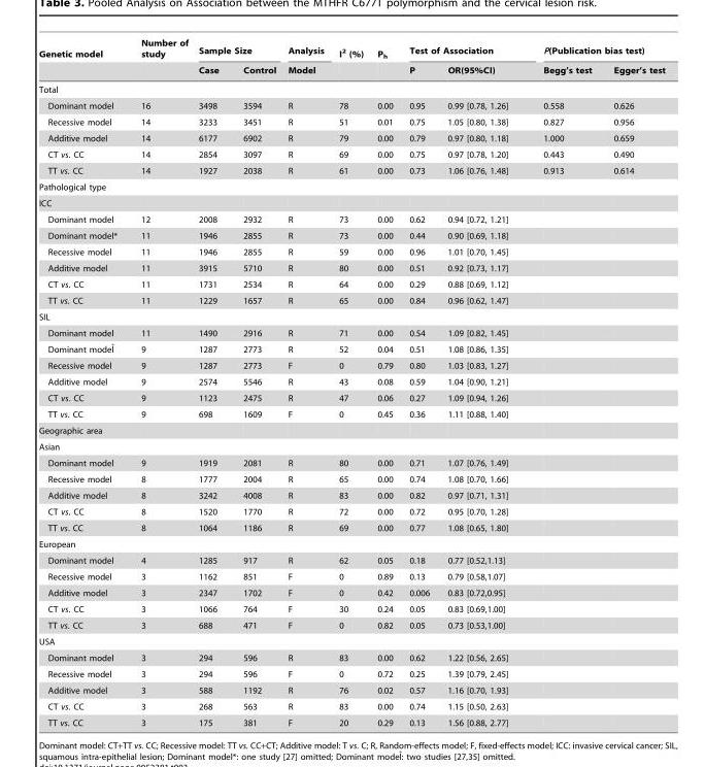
<table><thead><tr><td rowspan="2">Genetic model</td><td rowspan="2">Number of study</td><td colspan="2">Sample Size</td><td rowspan="2">Analysis Model</td><td rowspan="2">I<sup>2</sup> (%)</td><td rowspan="2">P<sub>h</sub></td><td colspan="2">Test of Association</td><td colspan="2">P(Publication bias test)</td></tr><tr><td>Case</td><td>Control</td><td>P</td><td>OR(95%CI)</td><td>Begg’s test</td><td>Egger’s test</td></tr></thead><tbody><tr><td colspan="11">Total</td></tr><tr><td>Dominant model</td><td>16</td><td>3498</td><td>3594</td><td>R</td><td>78</td><td>0.00</td><td>0.95</td><td>0.99 [0.78, 1.26]</td><td>0.558</td><td>0.626</td></tr><tr><td>Recessive model</td><td>14</td><td>3233</td><td>3451</td><td>R</td><td>51</td><td>0.01</td><td>0.75</td><td>1.05 [0.80, 1.38]</td><td>0.827</td><td>0.956</td></tr><tr><td>Additive model</td><td>14</td><td>6177</td><td>6902</td><td>R</td><td>79</td><td>0.00</td><td>0.79</td><td>0.97 [0.80, 1.18]</td><td>1.000</td><td>0.659</td></tr><tr><td>CT vs. CC</td><td>14</td><td>2854</td><td>3097</td><td>R</td><td>69</td><td>0.00</td><td>0.75</td><td>0.97 [0.78, 1.20]</td><td>0.443</td><td>0.490</td></tr><tr><td>TT vs. CC</td><td>14</td><td>1927</td><td>2038</td><td>R</td><td>61</td><td>0.00</td><td>0.73</td><td>1.06 [0.76, 1.48]</td><td>0.913</td><td>0.614</td></tr><tr><td colspan="11">Pathological type</td></tr><tr><td colspan="11">ICC</td></tr><tr><td>Dominant model</td><td>12</td><td>2008</td><td>2932</td><td>R</td><td>73</td><td>0.00</td><td>0.62</td><td>0.94 [0.72, 1.21]</td><td></td><td></td></tr><tr><td>Dominant model*</td><td>11</td><td>1946</td><td>2855</td><td>R</td><td>73</td><td>0.00</td><td>0.44</td><td>0.90 [0.69, 1.18]</td><td></td><td></td></tr><tr><td>Recessive model</td><td>11</td><td>1946</td><td>2855</td><td>R</td><td>59</td><td>0.00</td><td>0.96</td><td>1.01 [0.70, 1.45]</td><td></td><td></td></tr><tr><td>Additive model</td><td>11</td><td>3915</td><td>5710</td><td>R</td><td>80</td><td>0.00</td><td>0.51</td><td>0.92 [0.73, 1.17]</td><td></td><td></td></tr><tr><td>CT vs. CC</td><td>11</td><td>1731</td><td>2534</td><td>R</td><td>64</td><td>0.00</td><td>0.29</td><td>0.88 [0.69, 1.12]</td><td></td><td></td></tr><tr><td>TT vs. CC</td><td>11</td><td>1229</td><td>1657</td><td>R</td><td>65</td><td>0.00</td><td>0.84</td><td>0.96 [0.62, 1.47]</td><td></td><td></td></tr><tr><td colspan="11">SIL</td></tr><tr><td>Dominant model</td><td>11</td><td>1490</td><td>2916</td><td>R</td><td>71</td><td>0.00</td><td>0.54</td><td>1.09 [0.82, 1.45]</td><td></td><td></td></tr><tr><td>Dominant modelˆ</td><td>9</td><td>1287</td><td>2773</td><td>R</td><td>52</td><td>0.04</td><td>0.51</td><td>1.08 [0.86, 1.35]</td><td></td><td></td></tr><tr><td>Recessive model</td><td>9</td><td>1287</td><td>2773</td><td>F</td><td>0</td><td>0.79</td><td>0.80</td><td>1.03 [0.83, 1.27]</td><td></td><td></td></tr><tr><td>Additive model</td><td>9</td><td>2574</td><td>5546</td><td>R</td><td>43</td><td>0.08</td><td>0.59</td><td>1.04 [0.90, 1.21]</td><td></td><td></td></tr><tr><td>CT vs. CC</td><td>9</td><td>1123</td><td>2475</td><td>R</td><td>47</td><td>0.06</td><td>0.27</td><td>1.09 [0.94, 1.26]</td><td></td><td></td></tr><tr><td>TT vs. CC</td><td>9</td><td>698</td><td>1609</td><td>F</td><td>0</td><td>0.45</td><td>0.36</td><td>1.11 [0.88, 1.40]</td><td></td><td></td></tr><tr><td colspan="11">Geographic area</td></tr><tr><td colspan="11">Asian</td></tr><tr><td>Dominant model</td><td>9</td><td>1919</td><td>2081</td><td>R</td><td>80</td><td>0.00</td><td>0.71</td><td>1.07 [0.76, 1.49]</td><td></td><td></td></tr><tr><td>Recessive model</td><td>8</td><td>1777</td><td>2004</td><td>R</td><td>65</td><td>0.00</td><td>0.74</td><td>1.08 [0.70, 1.66]</td><td></td><td></td></tr><tr><td>Additive model</td><td>8</td><td>3242</td><td>4008</td><td>R</td><td>83</td><td>0.00</td><td>0.82</td><td>0.97 [0.71, 1.31]</td><td></td><td></td></tr><tr><td>CT vs. CC</td><td>8</td><td>1520</td><td>1770</td><td>R</td><td>72</td><td>0.00</td><td>0.72</td><td>0.95 [0.70, 1.28]</td><td></td><td></td></tr><tr><td>TT vs. CC</td><td>8</td><td>1064</td><td>1186</td><td>R</td><td>69</td><td>0.00</td><td>0.77</td><td>1.08 [0.65, 1.80]</td><td></td><td></td></tr><tr><td colspan="11">European</td></tr><tr><td>Dominant model</td><td>4</td><td>1285</td><td>917</td><td>R</td><td>62</td><td>0.05</td><td>0.18</td><td>0.77 [0.52,1.13]</td><td></td><td></td></tr><tr><td>Recessive model</td><td>3</td><td>1162</td><td>851</td><td>F</td><td>0</td><td>0.89</td><td>0.13</td><td>0.79 [0.58,1.07]</td><td></td><td></td></tr><tr><td>Additive model</td><td>3</td><td>2347</td><td>1702</td><td>F</td><td>0</td><td>0.42</td><td>0.006</td><td>0.83 [0.72,0.95]</td><td></td><td></td></tr><tr><td>CT vs. CC</td><td>3</td><td>1066</td><td>764</td><td>F</td><td>30</td><td>0.24</td><td>0.05</td><td>0.83 [0.69,1.00]</td><td></td><td></td></tr><tr><td>TT vs. CC</td><td>3</td><td>688</td><td>471</td><td>F</td><td>0</td><td>0.82</td><td>0.05</td><td>0.73 [0.53,1.00]</td><td></td><td></td></tr><tr><td colspan="11">USA</td></tr><tr><td>Dominant model</td><td>3</td><td>294</td><td>596</td><td>R</td><td>83</td><td>0.00</td><td>0.62</td><td>1.22 [0.56, 2.65]</td><td></td><td></td></tr><tr><td>Recessive model</td><td>3</td><td>294</td><td>596</td><td>F</td><td>0</td><td>0.72</td><td>0.25</td><td>1.39 [0.79, 2.45]</td><td></td><td></td></tr><tr><td>Additive model</td><td>3</td><td>588</td><td>1192</td><td>R</td><td>76</td><td>0.02</td><td>0.57</td><td>1.16 [0.70, 1.93]</td><td></td><td></td></tr><tr><td>CT vs. CC</td><td>3</td><td>268</td><td>563</td><td>R</td><td>83</td><td>0.00</td><td>0.74</td><td>1.15 [0.50, 2.63]</td><td></td><td></td></tr><tr><td>TT vs. CC</td><td>3</td><td>175</td><td>381</td><td>F</td><td>20</td><td>0.29</td><td>0.13</td><td>1.56 [0.88, 2.77]</td><td></td><td></td></tr></tbody></table>